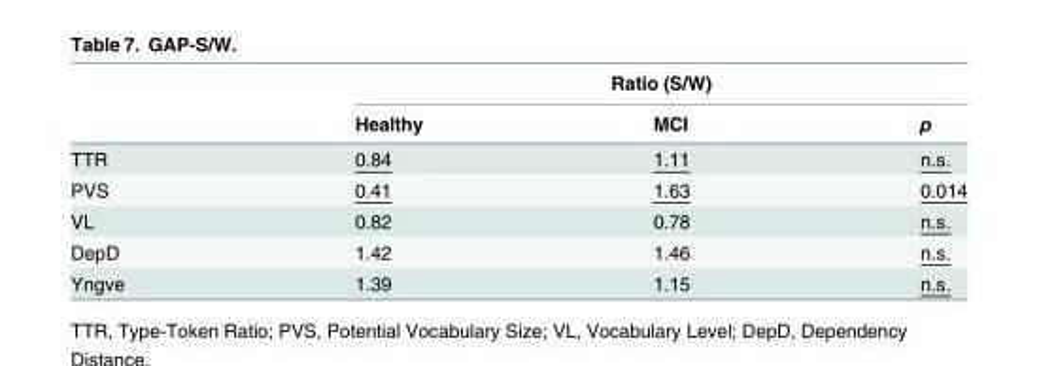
<table><thead><tr><td rowspan="2"></td><td colspan="3">Ratio (S/W)</td></tr><tr><td>Healthy</td><td>MCI</td><td>p</td></tr></thead><tbody><tr><td>TTR</td><td>0.84</td><td>1.11</td><td>n.s.</td></tr><tr><td>PVS</td><td>0.41</td><td>1.63</td><td>0.014</td></tr><tr><td>VL</td><td>0.82</td><td>0.78</td><td>n.s.</td></tr><tr><td>DepD</td><td>1.42</td><td>1.46</td><td>n.s.</td></tr><tr><td>Yngve</td><td>1.39</td><td>1.15</td><td>n.s.</td></tr></tbody></table>